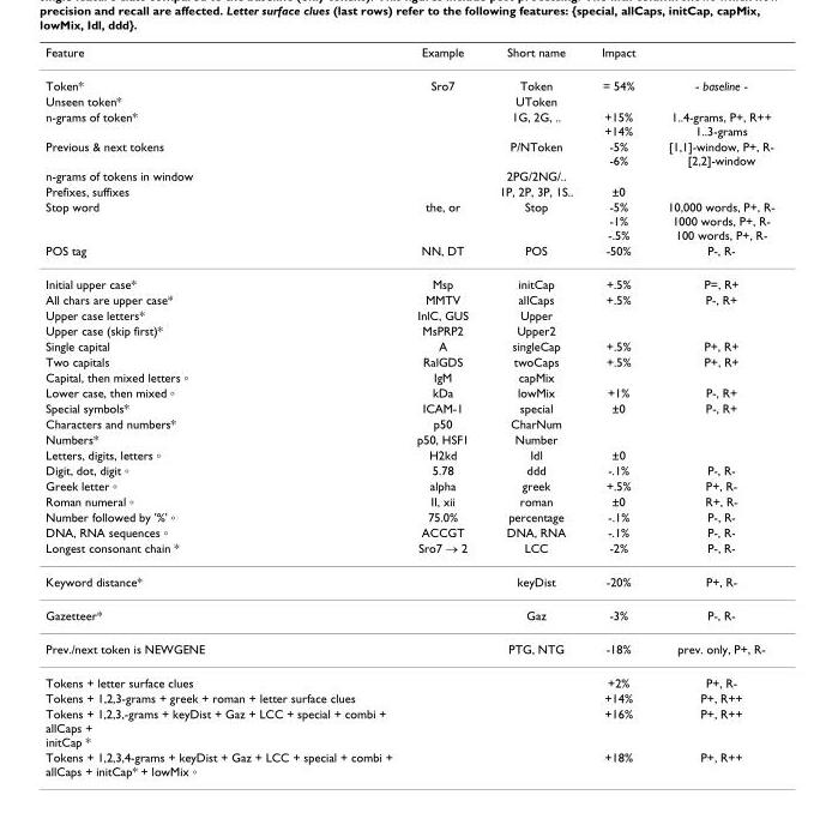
<table><thead><tr><td>Feature</td><td>Example</td><td>Short name</td><td>Impact</td><td></td></tr></thead><tbody><tr><td>Token*</td><td>Sro7</td><td>Token</td><td>= 54%</td><td>- baseline -</td></tr><tr><td>Unseen token*</td><td></td><td>UToken</td><td></td><td></td></tr><tr><td>n-grams of token*</td><td></td><td>1G, 2G, ..</td><td>+15% +14%</td><td>1..4-grams, P+, R++ 1..3-grams</td></tr><tr><td>Previous &amp; next tokens</td><td></td><td>P/NToken</td><td>-5% -6%</td><td>[1,1]-window, P+, R- [2,2]-window</td></tr><tr><td>n-grams of tokens in window</td><td></td><td>2PG/2NG/..</td><td></td><td></td></tr><tr><td>Prefixes, suffixes</td><td></td><td>1P, 2P, 3P, 1S..</td><td>±0</td><td></td></tr><tr><td>Stop word</td><td>the, or</td><td>Stop</td><td>-5% -1% -.5%</td><td>10,000 words, P+, R- 1000 words, P+, R- 100 words, P+, R-</td></tr><tr><td>POS tag</td><td>NN, DT</td><td>POS</td><td>-50%</td><td>P-, R-</td></tr><tr><td>Initial upper case*</td><td>Msp</td><td>initCap</td><td>+.5%</td><td>P=, R+</td></tr><tr><td>All chars are upper case*</td><td>MMTV</td><td>allCaps</td><td>+.5%</td><td>P-, R+</td></tr><tr><td>Upper case letters*</td><td>InlC, GUS</td><td>Upper</td><td></td><td></td></tr><tr><td>Upper case (skip first)*</td><td>MsPRP2</td><td>Upper2</td><td></td><td></td></tr><tr><td>Single capital</td><td>A</td><td>singleCap</td><td>+.5%</td><td>P+, R+</td></tr><tr><td>Two capitals</td><td>RalGDS</td><td>twoCaps</td><td>+.5%</td><td>P+, R+</td></tr><tr><td>Capital, then mixed letters ◦</td><td>IgM</td><td>capMix</td><td></td><td></td></tr><tr><td>Lower case, then mixed ◦</td><td>kDa</td><td>lowMix</td><td>+1%</td><td>P-, R+</td></tr><tr><td>Special symbols*</td><td>ICAM-1</td><td>special</td><td>±0</td><td>P-, R+</td></tr><tr><td>Characters and numbers*</td><td>p50</td><td>CharNum</td><td></td><td></td></tr><tr><td>Numbers*</td><td>p50, HSF1</td><td>Number</td><td></td><td></td></tr><tr><td>Letters, digits, letters ◦</td><td>H2kd</td><td>Idl</td><td>±0</td><td></td></tr><tr><td>Digit, dot, digit ◦</td><td>5.78</td><td>ddd</td><td>-.1%</td><td>P-, R-</td></tr><tr><td>Greek letter ◦</td><td>alpha</td><td>greek</td><td>+.5%</td><td>P+, R-</td></tr><tr><td>Roman numeral ◦</td><td>II, xii</td><td>roman</td><td>±0</td><td>R+, R-</td></tr><tr><td>Number followed by &#x27;%&#x27; ◦</td><td>75.0%</td><td>percentage</td><td>-.1%</td><td>P-, R-</td></tr><tr><td>DNA, RNA sequences ◦</td><td>ACCGT</td><td>DNA, RNA</td><td>-.1%</td><td>P-, R-</td></tr><tr><td>Longest consonant chain *</td><td>Sro7 → 2</td><td>LCC</td><td>-2%</td><td>P-, R-</td></tr><tr><td>Keyword distance*</td><td></td><td>keyDist</td><td>-20%</td><td>P+, R-</td></tr><tr><td>Gazetteer*</td><td></td><td>Gaz</td><td>-3%</td><td>P-, R-</td></tr><tr><td>Prev./next token is NEWGENE</td><td></td><td>PTG, NTG</td><td>-18%</td><td>prev. only, P+, R-</td></tr><tr><td>Tokens + letter surface clues</td><td></td><td></td><td>+2%</td><td>P+, R-</td></tr><tr><td>Tokens + 1,2,3-grams + greek + roman + letter surface clues</td><td></td><td></td><td>+14%</td><td>P+, R++</td></tr><tr><td>Tokens + 1,2,3,-grams + keyDist + Gaz + LCC + special + combi + allCaps + initCap *</td><td></td><td></td><td>+16%</td><td>P+, R++</td></tr><tr><td>Tokens + 1,2,3,4-grams + keyDist + Gaz + LCC + special + combi + allCaps + initCap* + lowMix ◦</td><td></td><td></td><td>+18%</td><td>P+, R++</td></tr></tbody></table>